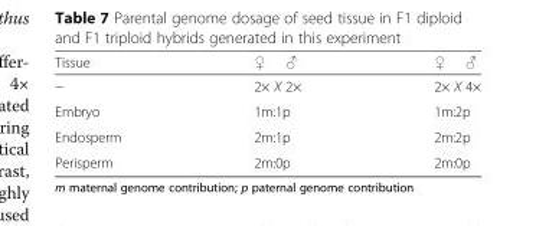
<table><thead><tr><td>Tissue</td><td>♀ ♂</td><td>♀ ♂</td></tr></thead><tbody><tr><td>−</td><td>2× X 2×</td><td>2× X 4×</td></tr><tr><td>Embryo</td><td>1m:1p</td><td>1m:2p</td></tr><tr><td>Endosperm</td><td>2m:1p</td><td>2m:2p</td></tr><tr><td>Perisperm</td><td>2m:0p</td><td>2m:0p</td></tr></tbody></table>